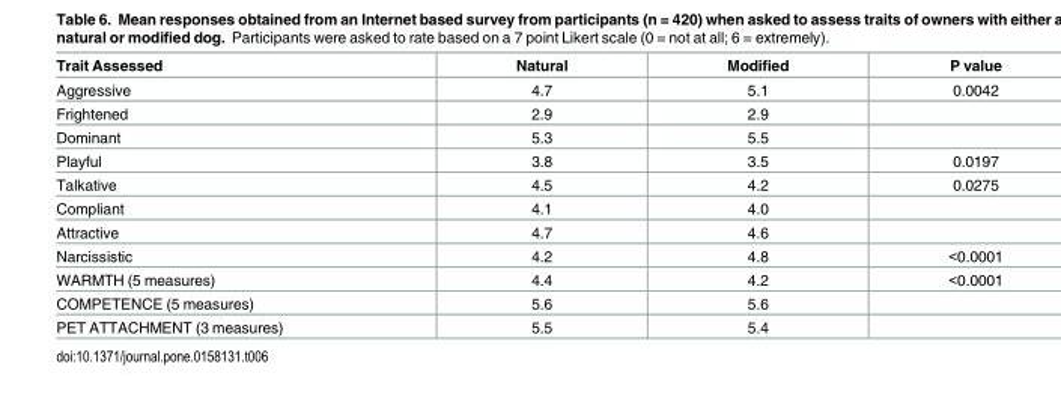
<table><thead><tr><td>Trait Assessed</td><td>Natural</td><td>Modified</td><td>P value</td></tr></thead><tbody><tr><td>Aggressive</td><td>4.7</td><td>5.1</td><td>0.0042</td></tr><tr><td>Frightened</td><td>2.9</td><td>2.9</td><td></td></tr><tr><td>Dominant</td><td>5.3</td><td>5.5</td><td></td></tr><tr><td>Playful</td><td>3.8</td><td>3.5</td><td>0.0197</td></tr><tr><td>Talkative</td><td>4.5</td><td>4.2</td><td>0.0275</td></tr><tr><td>Compliant</td><td>4.1</td><td>4.0</td><td></td></tr><tr><td>Attractive</td><td>4.7</td><td>4.6</td><td></td></tr><tr><td>Narcissistic</td><td>4.2</td><td>4.8</td><td>&lt;0.0001</td></tr><tr><td>WARMTH (5 measures)</td><td>4.4</td><td>4.2</td><td>&lt;0.0001</td></tr><tr><td>COMPETENCE (5 measures)</td><td>5.6</td><td>5.6</td><td></td></tr><tr><td>PET ATTACHMENT (3 measures)</td><td>5.5</td><td>5.4</td><td></td></tr></tbody></table>